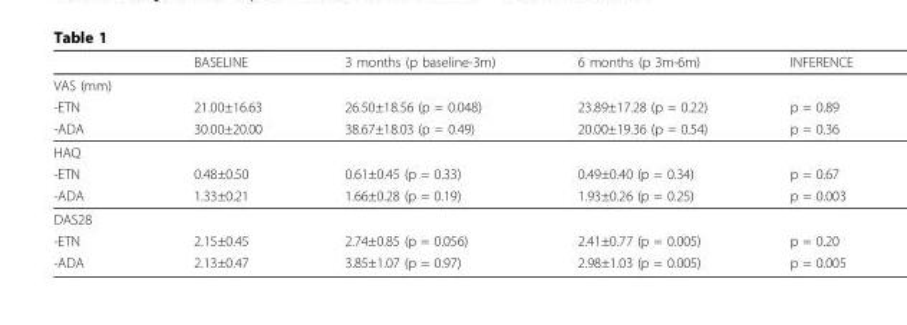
<table><thead><tr><td></td><td>BASELINE</td><td>3 months (p baseline-3m)</td><td>6 months (p 3m-6m)</td><td>INFERENCE</td></tr></thead><tbody><tr><td colspan="5">VAS (mm)</td></tr><tr><td>-ETN</td><td>21.00±16.63</td><td>26.50±18.56 (p = 0.048)</td><td>23.89±17.28 (p = 0.22)</td><td>p = 0.89</td></tr><tr><td>-ADA</td><td>30.00±20.00</td><td>38.67±18.03 (p = 0.49)</td><td>20.00±19.36 (p = 0.54)</td><td>p = 0.36</td></tr><tr><td colspan="5">HAQ</td></tr><tr><td>-ETN</td><td>0.48±0.50</td><td>0.61±0.45 (p = 0.33)</td><td>0.49±0.40 (p = 0.34)</td><td>p = 0.67</td></tr><tr><td>-ADA</td><td>1.33±0.21</td><td>1.66±0.28 (p = 0.19)</td><td>1.93±0.26 (p = 0.25)</td><td>p = 0.003</td></tr><tr><td colspan="5">DAS28</td></tr><tr><td>-ETN</td><td>2.15±0.45</td><td>2.74±0.85 (p = 0.056)</td><td>2.41±0.77 (p = 0.005)</td><td>p = 0.20</td></tr><tr><td>-ADA</td><td>2.13±0.47</td><td>3.85±1.07 (p = 0.97)</td><td>2.98±1.03 (p = 0.005)</td><td>p = 0.005</td></tr></tbody></table>